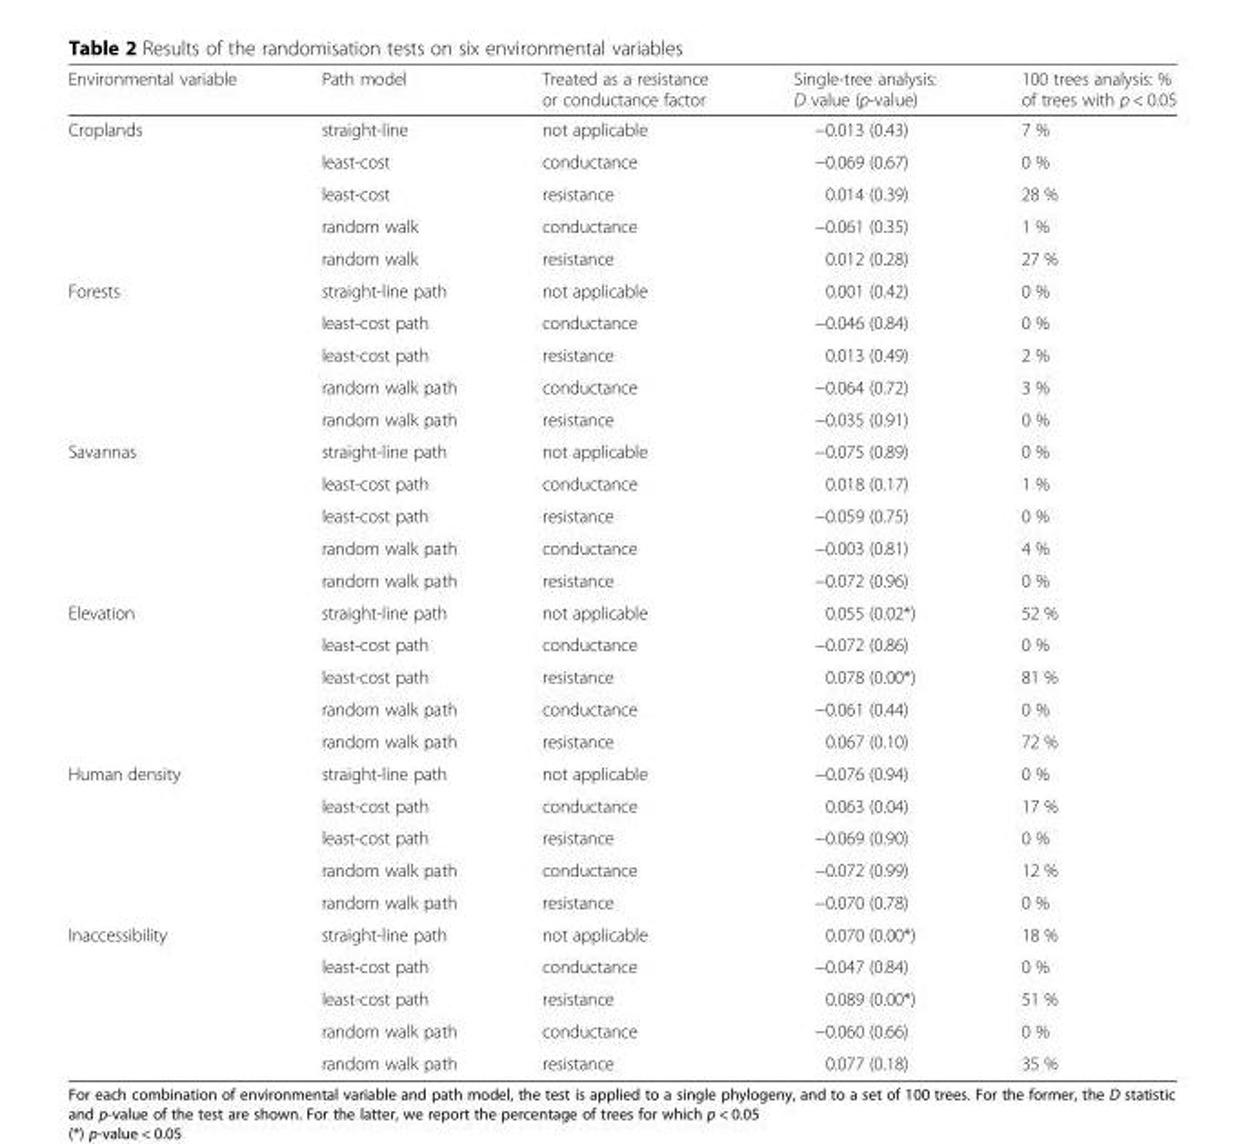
<table><thead><tr><td>Environmental variable</td><td>Path model</td><td>Treated as a resistance or conductance factor</td><td>Single-tree analysis: D value (p-value)</td><td>100 trees analysis: % of trees with p &lt; 0.05</td></tr></thead><tbody><tr><td rowspan="5">Croplands</td><td>straight-line</td><td>not applicable</td><td>−0.013 (0.43)</td><td>7 %</td></tr><tr><td>least-cost</td><td>conductance</td><td>−0.069 (0.67)</td><td>0 %</td></tr><tr><td>least-cost</td><td>resistance</td><td>0.014 (0.39)</td><td>28 %</td></tr><tr><td>random walk</td><td>conductance</td><td>−0.061 (0.35)</td><td>1 %</td></tr><tr><td>random walk</td><td>resistance</td><td>0.012 (0.28)</td><td>27 %</td></tr><tr><td rowspan="5">Forests</td><td>straight-line path</td><td>not applicable</td><td>0.001 (0.42)</td><td>0 %</td></tr><tr><td>least-cost path</td><td>conductance</td><td>−0.046 (0.84)</td><td>0 %</td></tr><tr><td>least-cost path</td><td>resistance</td><td>0.013 (0.49)</td><td>2 %</td></tr><tr><td>random walk path</td><td>conductance</td><td>−0.064 (0.72)</td><td>3 %</td></tr><tr><td>random walk path</td><td>resistance</td><td>−0.035 (0.91)</td><td>0 %</td></tr><tr><td rowspan="5">Savannas</td><td>straight-line path</td><td>not applicable</td><td>−0.075 (0.89)</td><td>0 %</td></tr><tr><td>least-cost path</td><td>conductance</td><td>0.018 (0.17)</td><td>1 %</td></tr><tr><td>least-cost path</td><td>resistance</td><td>−0.059 (0.75)</td><td>0 %</td></tr><tr><td>random walk path</td><td>conductance</td><td>−0.003 (0.81)</td><td>4 %</td></tr><tr><td>random walk path</td><td>resistance</td><td>−0.072 (0.96)</td><td>0 %</td></tr><tr><td rowspan="5">Elevation</td><td>straight-line path</td><td>not applicable</td><td>0.055 (0.02*)</td><td>52 %</td></tr><tr><td>least-cost path</td><td>conductance</td><td>−0.072 (0.86)</td><td>0 %</td></tr><tr><td>least-cost path</td><td>resistance</td><td>0.078 (0.00*)</td><td>81 %</td></tr><tr><td>random walk path</td><td>conductance</td><td>−0.061 (0.44)</td><td>0 %</td></tr><tr><td>random walk path</td><td>resistance</td><td>0.067 (0.10)</td><td>72 %</td></tr><tr><td rowspan="5">Human density</td><td>straight-line path</td><td>not applicable</td><td>−0.076 (0.94)</td><td>0 %</td></tr><tr><td>least-cost path</td><td>conductance</td><td>0.063 (0.04)</td><td>17 %</td></tr><tr><td>least-cost path</td><td>resistance</td><td>−0.069 (0.90)</td><td>0 %</td></tr><tr><td>random walk path</td><td>conductance</td><td>−0.072 (0.99)</td><td>12 %</td></tr><tr><td>random walk path</td><td>resistance</td><td>−0.070 (0.78)</td><td>0 %</td></tr><tr><td rowspan="5">Inaccessibility</td><td>straight-line path</td><td>not applicable</td><td>0.070 (0.00*)</td><td>18 %</td></tr><tr><td>least-cost path</td><td>conductance</td><td>−0.047 (0.84)</td><td>0 %</td></tr><tr><td>least-cost path</td><td>resistance</td><td>0.089 (0.00*)</td><td>51 %</td></tr><tr><td>random walk path</td><td>conductance</td><td>−0.060 (0.66)</td><td>0 %</td></tr><tr><td>random walk path</td><td>resistance</td><td>0.077 (0.18)</td><td>35 %</td></tr></tbody></table>